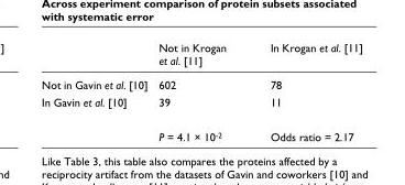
<table><thead><tr><td></td><td>Not in Krogan et al. [11]</td><td>In Krogan et al. [11]</td></tr></thead><tbody><tr><td>Not in Gavin et al. [10]</td><td>602</td><td>78</td></tr><tr><td rowspan="2">In Gavin et al. [10]</td><td>39</td><td>11</td></tr><tr><td>P = 4.1 × 10<sup>-2</sup></td><td>Odds ratio = 2.17</td></tr></tbody></table>